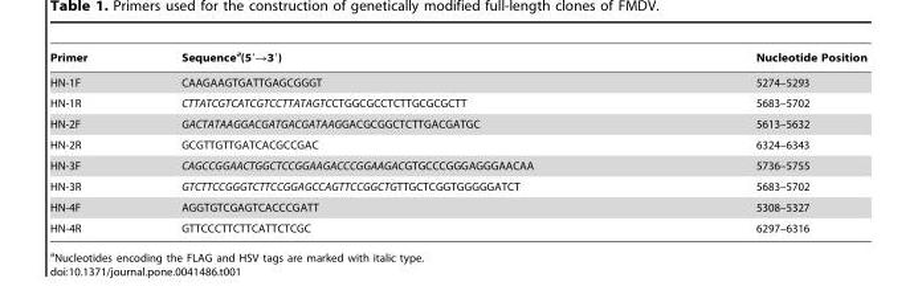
<table><thead><tr><td>Primer</td><td>Sequence<sup>a</sup>(5′→3′)</td><td>Nucleotide Position</td></tr></thead><tbody><tr><td>HN-1F</td><td>CAAGAAGTGATTGAGCGGGT</td><td>5274–5293</td></tr><tr><td>HN-1R</td><td>CTTATCGTCATCGTCCTTATAGTCCTGGCGCCTCTTGCGCGCTT</td><td>5683–5702</td></tr><tr><td>HN-2F</td><td>GACTATAAGGACGATGACGATAAGGACGCGGCTCTTGACGATGC</td><td>5613–5632</td></tr><tr><td>HN-2R</td><td>GCGTTGTTGATCACGCCGAC</td><td>6324–6343</td></tr><tr><td>HN-3F</td><td>CAGCCGGAACTGGCTCCGGAAGACCCGGAAGACGTGCCCGGGAGGGAACAA</td><td>5736–5755</td></tr><tr><td>HN-3R</td><td>GTCTTCCGGGTCTTCCGGAGCCAGTTCCGGCTGTTGCTCGGTGGGGGATCT</td><td>5683–5702</td></tr><tr><td>HN-4F</td><td>AGGTGTCGAGTCACCCGATT</td><td>5308–5327</td></tr><tr><td>HN-4R</td><td>GTTCCCTTCTTCATTCTCGC</td><td>6297–6316</td></tr></tbody></table>